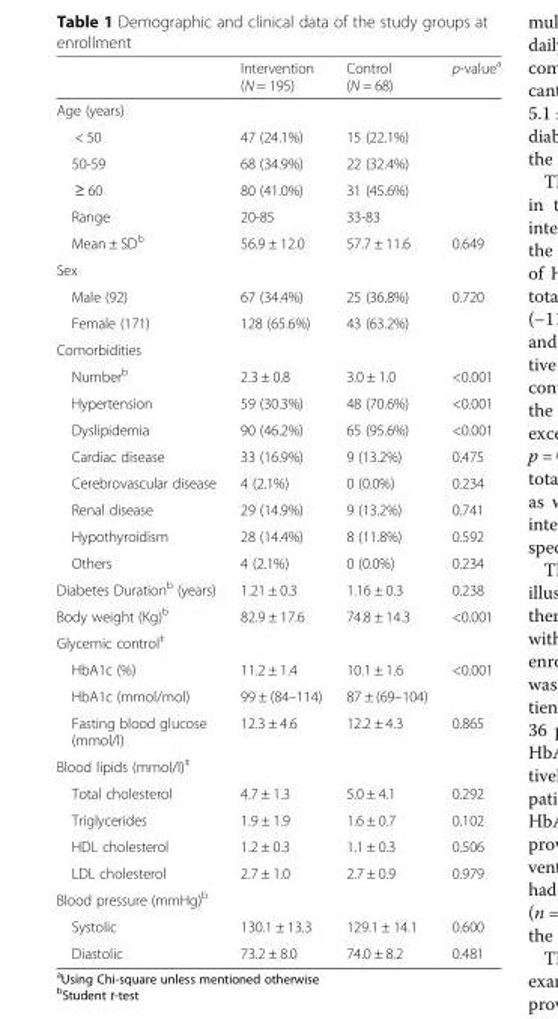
<table><thead><tr><td></td><td>Intervention (N = 195)</td><td>Control (N = 68)</td><td>p-value<sup>a</sup></td></tr></thead><tbody><tr><td colspan="4">Age (years)</td></tr><tr><td>&lt; 50</td><td>47 (24.1%)</td><td>15 (22.1%)</td><td></td></tr><tr><td>50-59</td><td>68 (34.9%)</td><td>22 (32.4%)</td><td></td></tr><tr><td>≥ 60</td><td>80 (41.0%)</td><td>31 (45.6%)</td><td></td></tr><tr><td>Range</td><td>20-85</td><td>33-83</td><td></td></tr><tr><td>Mean ± SD<sup>b</sup></td><td>56.9 ± 12.0</td><td>57.7 ± 11.6</td><td>0.649</td></tr><tr><td colspan="4">Sex</td></tr><tr><td>Male (92)</td><td>67 (34.4%)</td><td>25 (36.8%)</td><td>0.720</td></tr><tr><td>Female (171)</td><td>128 (65.6%)</td><td>43 (63.2%)</td><td></td></tr><tr><td colspan="4">Comorbidities</td></tr><tr><td>Number<sup>b</sup></td><td>2.3 ± 0.8</td><td>3.0 ± 1.0</td><td>&lt;0.001</td></tr><tr><td>Hypertension</td><td>59 (30.3%)</td><td>48 (70.6%)</td><td>&lt;0.001</td></tr><tr><td>Dyslipidemia</td><td>90 (46.2%)</td><td>65 (95.6%)</td><td>&lt;0.001</td></tr><tr><td>Cardiac disease</td><td>33 (16.9%)</td><td>9 (13.2%)</td><td>0.475</td></tr><tr><td>Cerebrovascular disease</td><td>4 (2.1%)</td><td>0 (0.0%)</td><td>0.234</td></tr><tr><td>Renal disease</td><td>29 (14.9%)</td><td>9 (13.2%)</td><td>0.741</td></tr><tr><td>Hypothyroidism</td><td>28 (14.4%)</td><td>8 (11.8%)</td><td>0.592</td></tr><tr><td>Others</td><td>4 (2.1%)</td><td>0 (0.0%)</td><td>0.234</td></tr><tr><td>Diabetes Duration<sup>b</sup> (years)</td><td>1.21 ± 0.3</td><td>1.16 ± 0.3</td><td>0.238</td></tr><tr><td>Body weight (Kg)<sup>b</sup></td><td>82.9 ± 17.6</td><td>74.8 ± 14.3</td><td>&lt;0.001</td></tr><tr><td colspan="4">Glycemic control<sup>‡</sup></td></tr><tr><td>HbA1c (%)</td><td>11.2 ± 1.4</td><td>10.1 ± 1.6</td><td>&lt;0.001</td></tr><tr><td>HbA1c (mmol/mol)</td><td>99 ± (84–114)</td><td>87 ± (69–104)</td><td></td></tr><tr><td>Fasting blood glucose (mmol/l)</td><td>12.3 ± 4.6</td><td>12.2 ± 4.3</td><td>0.865</td></tr><tr><td colspan="4">Blood lipids (mmol/l)<sup>‡</sup></td></tr><tr><td>Total cholesterol</td><td>4.7 ± 1.3</td><td>5.0 ± 4.1</td><td>0.292</td></tr><tr><td>Triglycerides</td><td>1.9 ± 1.9</td><td>1.6 ± 0.7</td><td>0.102</td></tr><tr><td>HDL cholesterol</td><td>1.2 ± 0.3</td><td>1.1 ± 0.3</td><td>0.506</td></tr><tr><td>LDL cholesterol</td><td>2.7 ± 1.0</td><td>2.7 ± 0.9</td><td>0.979</td></tr><tr><td colspan="4">Blood pressure (mmHg)<sup>b</sup></td></tr><tr><td>Systolic</td><td>130.1 ± 13.3</td><td>129.1 ± 14.1</td><td>0.600</td></tr><tr><td>Diastolic</td><td>73.2 ± 8.0</td><td>74.0 ± 8.2</td><td>0.481</td></tr></tbody></table>